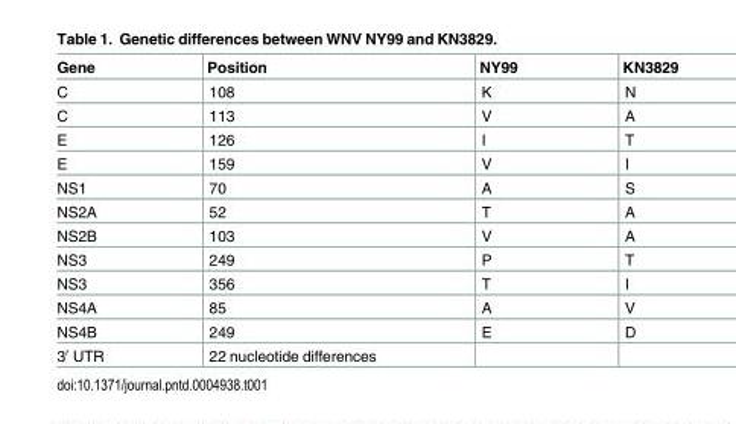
<table><thead><tr><td>Gene</td><td>Position</td><td>NY99</td><td>KN3829</td></tr></thead><tbody><tr><td>C</td><td>108</td><td>K</td><td>N</td></tr><tr><td>C</td><td>113</td><td>V</td><td>A</td></tr><tr><td>E</td><td>126</td><td>I</td><td>T</td></tr><tr><td>E</td><td>159</td><td>V</td><td>I</td></tr><tr><td>NS1</td><td>70</td><td>A</td><td>S</td></tr><tr><td>NS2A</td><td>52</td><td>T</td><td>A</td></tr><tr><td>NS2B</td><td>103</td><td>V</td><td>A</td></tr><tr><td>NS3</td><td>249</td><td>P</td><td>T</td></tr><tr><td>NS3</td><td>356</td><td>T</td><td>I</td></tr><tr><td>NS4A</td><td>85</td><td>A</td><td>V</td></tr><tr><td>NS4B</td><td>249</td><td>E</td><td>D</td></tr><tr><td>3′ UTR</td><td>22 nucleotide differences</td><td></td><td></td></tr></tbody></table>